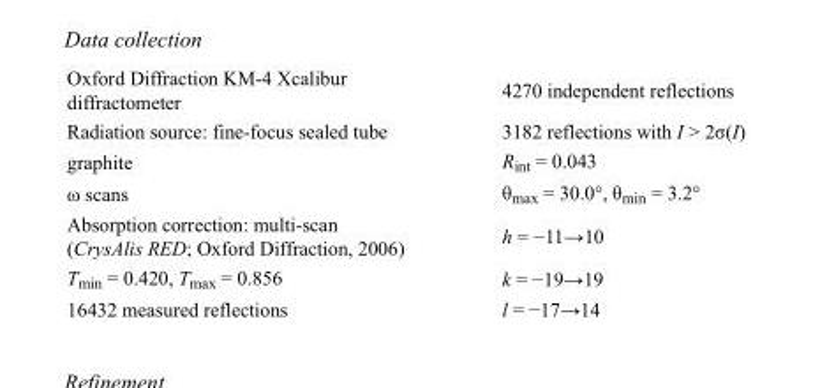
<table><tbody><tr><td>Oxford Diffraction KM-4 Xcalibur diffractometer</td><td>4270 independent reflections</td></tr><tr><td>Radiation source: fine-focus sealed tube</td><td>3182 reflections with I &gt; 2σ(I)</td></tr><tr><td>graphite</td><td>R<sub>int</sub> = 0.043</td></tr><tr><td>ω scans</td><td>θ<sub>max</sub> = 30.0°, θ<sub>min</sub> = 3.2°</td></tr><tr><td>Absorption correction: multi-scan (CrysAlis RED; Oxford Diffraction, 2006)</td><td>h = −11→10</td></tr><tr><td>T<sub>min</sub> = 0.420, T<sub>max</sub> = 0.856</td><td>k = −19→19</td></tr><tr><td>16432 measured reflections</td><td>l = −17→14</td></tr></tbody></table>